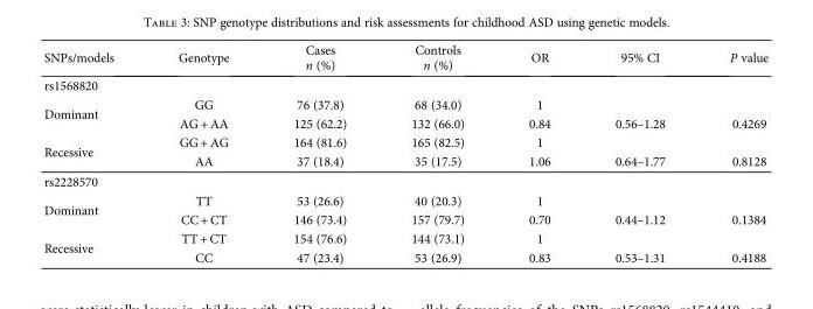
<table><thead><tr><td>SNPs/models</td><td>Genotype</td><td>Cases n (%)</td><td>Controls n (%)</td><td>OR</td><td>95% CI</td><td>P value</td></tr></thead><tbody><tr><td colspan="7">rs1568820</td></tr><tr><td rowspan="2">Dominant</td><td>GG</td><td>76 (37.8)</td><td>68 (34.0)</td><td>1</td><td></td><td></td></tr><tr><td>AG + AA</td><td>125 (62.2)</td><td>132 (66.0)</td><td>0.84</td><td>0.56–1.28</td><td>0.4269</td></tr><tr><td rowspan="2">Recessive</td><td>GG + AG</td><td>164 (81.6)</td><td>165 (82.5)</td><td>1</td><td></td><td></td></tr><tr><td>AA</td><td>37 (18.4)</td><td>35 (17.5)</td><td>1.06</td><td>0.64–1.77</td><td>0.8128</td></tr><tr><td colspan="7">rs2228570</td></tr><tr><td rowspan="2">Dominant</td><td>TT</td><td>53 (26.6)</td><td>40 (20.3)</td><td>1</td><td></td><td></td></tr><tr><td>CC + CT</td><td>146 (73.4)</td><td>157 (79.7)</td><td>0.70</td><td>0.44–1.12</td><td>0.1384</td></tr><tr><td rowspan="2">Recessive</td><td>TT + CT</td><td>154 (76.6)</td><td>144 (73.1)</td><td>1</td><td></td><td></td></tr><tr><td>CC</td><td>47 (23.4)</td><td>53 (26.9)</td><td>0.83</td><td>0.53–1.31</td><td>0.4188</td></tr></tbody></table>